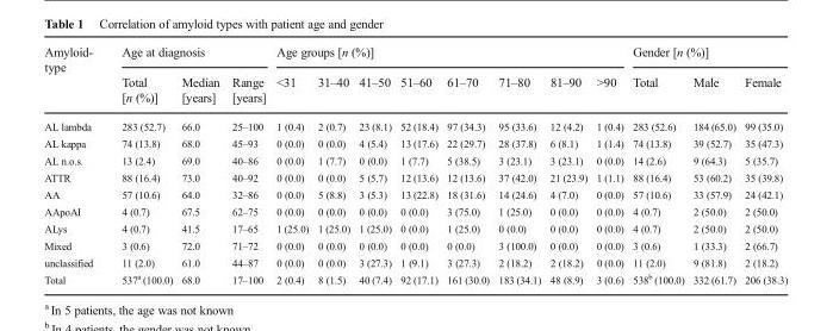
<table><thead><tr><td rowspan="2">Amyloid- type</td><td colspan="3">Age at diagnosis</td><td colspan="8">Age groups [n (%)]</td><td colspan="3">Gender [n (%)]</td></tr><tr><td>Total [n (%)]</td><td>Median [years]</td><td>Range [years]</td><td>&lt;31</td><td>31–40</td><td>41–50</td><td>51–60</td><td>61–70</td><td>71–80</td><td>81–90</td><td>&gt;90</td><td>Total</td><td>Male</td><td>Female</td></tr></thead><tbody><tr><td>AL lambda</td><td>283 (52.7)</td><td>66.0</td><td>25–100</td><td>1 (0.4)</td><td>2 (0.7)</td><td>23 (8.1)</td><td>52 (18.4)</td><td>97 (34.3)</td><td>95 (33.6)</td><td>12 (4.2)</td><td>1 (0.4)</td><td>283 (52.6)</td><td>184 (65.0)</td><td>99 (35.0)</td></tr><tr><td>AL kappa</td><td>74 (13.8)</td><td>68.0</td><td>45–93</td><td>0 (0.0)</td><td>0 (0.0)</td><td>4 (5.4)</td><td>13 (17.6)</td><td>22 (29.7)</td><td>28 (37.8)</td><td>6 (8.1)</td><td>1 (1.4)</td><td>74 (13.8)</td><td>39 (52.7)</td><td>35 (47.3)</td></tr><tr><td>AL n.o.s.</td><td>13 (2.4)</td><td>69.0</td><td>40–86</td><td>0 (0.0)</td><td>1 (7.7)</td><td>0 (0.0)</td><td>1 (7.7)</td><td>5 (38.5)</td><td>3 (23.1)</td><td>3 (23.1)</td><td>0 (0.0)</td><td>14 (2.6)</td><td>9 (64.3)</td><td>5 (35.7)</td></tr><tr><td>ATTR</td><td>88 (16.4)</td><td>73.0</td><td>40–92</td><td>0 (0.0)</td><td>0 (0.0)</td><td>5 (5.7)</td><td>12 (13.6)</td><td>12 (13.6)</td><td>37 (42.0)</td><td>21 (23.9)</td><td>1 (1.1)</td><td>88 (16.4)</td><td>53 (60.2)</td><td>35 (39.8)</td></tr><tr><td>AA</td><td>57 (10.6)</td><td>64.0</td><td>32–86</td><td>0 (0.0)</td><td>5 (8.8)</td><td>3 (5.3)</td><td>13 (22.8)</td><td>18 (31.6)</td><td>14 (24.6)</td><td>4 (7.0)</td><td>0 (0.0)</td><td>57 (10.6)</td><td>33 (57.9)</td><td>24 (42.1)</td></tr><tr><td>AApoAI</td><td>4 (0.7)</td><td>67.5</td><td>62–75</td><td>0 (0.0)</td><td>0 (0.0)</td><td>0 (0.0)</td><td>0 (0.0)</td><td>3 (75.0)</td><td>1 (25.0)</td><td>0 (0.0)</td><td>0 (0.0)</td><td>4 (0.7)</td><td>2 (50.0)</td><td>2 (50.0)</td></tr><tr><td>ALys</td><td>4 (0.7)</td><td>41.5</td><td>17–65</td><td>1 (25.0)</td><td>1 (25.0)</td><td>1 (25.0)</td><td>0 (0.0)</td><td>1 (25.0)</td><td>0 (0.0)</td><td>0 (0.0)</td><td>0 (0.0)</td><td>4 (0.7)</td><td>2 (50.0)</td><td>2 (50.0)</td></tr><tr><td>Mixed</td><td>3 (0.6)</td><td>72.0</td><td>71–72</td><td>0 (0.0)</td><td>0 (0.0)</td><td>0 (0.0)</td><td>0 (0.0)</td><td>0 (0.0)</td><td>3 (100.0)</td><td>0 (0.0)</td><td>0 (0.0)</td><td>3 (0.6)</td><td>1 (33.3)</td><td>2 (66.7)</td></tr><tr><td>unclassified</td><td>11 (2.0)</td><td>61.0</td><td>44–87</td><td>0 (0.0)</td><td>0 (0.0)</td><td>3 (27.3)</td><td>1 (9.1)</td><td>3 (27.3)</td><td>2 (18.2)</td><td>2 (18.2)</td><td>0 (0.0)</td><td>11 (2.0)</td><td>9 (81.8)</td><td>2 (18.2)</td></tr><tr><td>Total</td><td>537<sup>a</sup> (100.0)</td><td>68.0</td><td>17–100</td><td>2 (0.4)</td><td>8 (1.5)</td><td>40 (7.4)</td><td>92 (17.1)</td><td>161 (30.0)</td><td>183 (34.1)</td><td>48 (8.9)</td><td>3 (0.6)</td><td>538<sup>b</sup> (100.0)</td><td>332 (61.7)</td><td>206 (38.3)</td></tr></tbody></table>